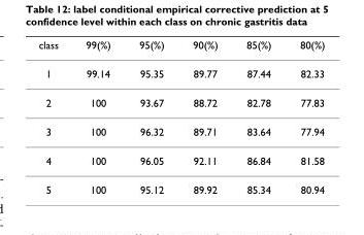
<table><thead><tr><td>class</td><td>99(%)</td><td>95(%)</td><td>90(%)</td><td>85(%)</td><td>80(%)</td></tr></thead><tbody><tr><td>1</td><td>99.14</td><td>95.35</td><td>89.77</td><td>87.44</td><td>82.33</td></tr><tr><td>2</td><td>100</td><td>93.67</td><td>88.72</td><td>82.78</td><td>77.83</td></tr><tr><td>3</td><td>100</td><td>96.32</td><td>89.71</td><td>83.64</td><td>77.94</td></tr><tr><td>4</td><td>100</td><td>96.05</td><td>92.11</td><td>86.84</td><td>81.58</td></tr><tr><td>5</td><td>100</td><td>95.12</td><td>89.92</td><td>85.34</td><td>80.94</td></tr></tbody></table>